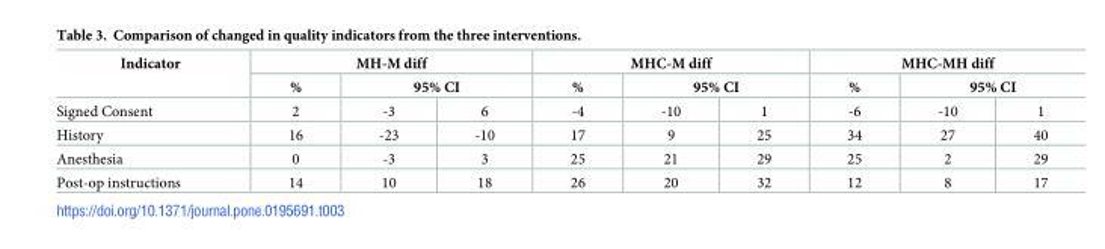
<table><thead><tr><td rowspan="3">Indicator Signed Consent</td><td colspan="3">MH-M diff</td><td colspan="3">MHC-M diff</td><td colspan="3">MHC-MH diff</td></tr><tr><td rowspan="2">% 2</td><td colspan="2">95% CI</td><td rowspan="2">% -4</td><td colspan="2">95% CI</td><td rowspan="2">% -6</td><td colspan="2">95% CI</td></tr><tr><td>-3</td><td>6</td><td>-10</td><td>1</td><td>-10</td><td>1</td></tr></thead><tbody><tr><td>History</td><td>16</td><td>-23</td><td>-10</td><td>17</td><td>9</td><td>25</td><td>34</td><td>27</td><td>40</td></tr><tr><td>Anesthesia</td><td>0</td><td>-3</td><td>3</td><td>25</td><td>21</td><td>29</td><td>25</td><td>2</td><td>29</td></tr><tr><td>Post-op instructions</td><td>14</td><td>10</td><td>18</td><td>26</td><td>20</td><td>32</td><td>12</td><td>8</td><td>17</td></tr></tbody></table>